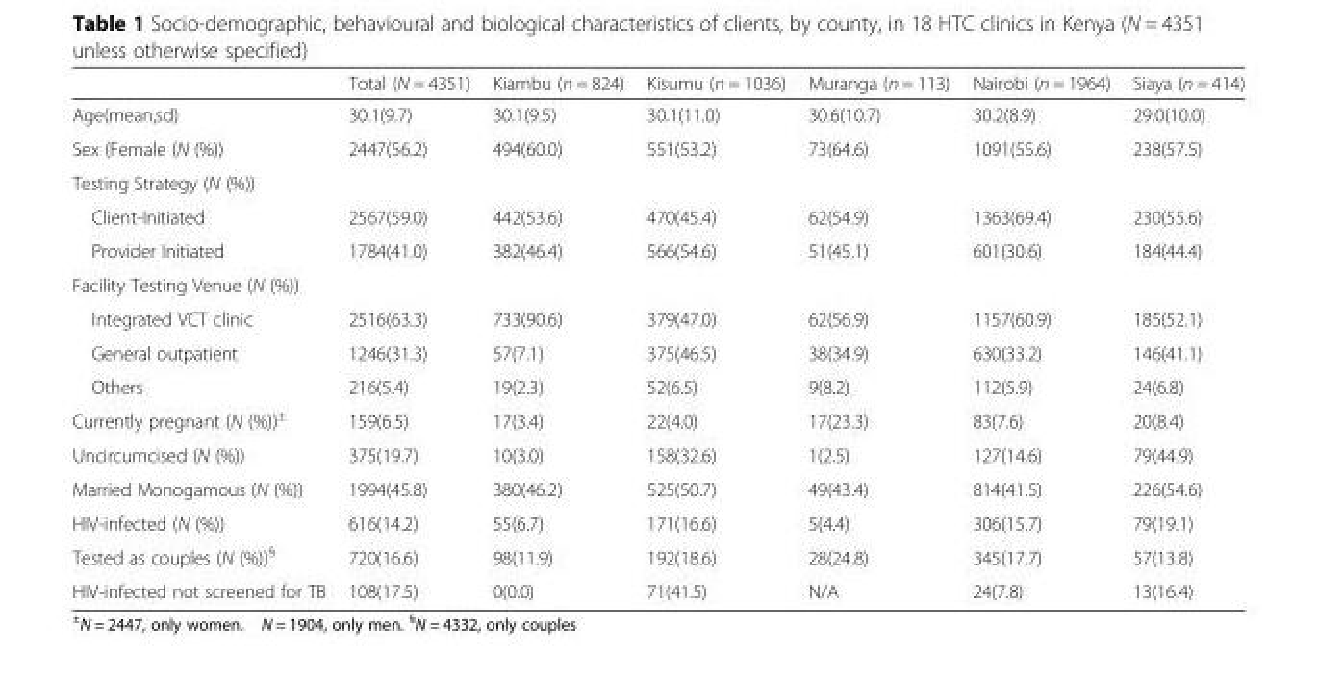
<table><thead><tr><td></td><td>Total (N = 4351)</td><td>Kiambu (n = 824)</td><td>Kisumu (n = 1036)</td><td>Muranga (n = 113)</td><td>Nairobi (n = 1964)</td><td>Siaya (n = 414)</td></tr></thead><tbody><tr><td>Age(mean,sd)</td><td>30.1(9.7)</td><td>30.1(9.5)</td><td>30.1(11.0)</td><td>30.6(10.7)</td><td>30.2(8.9)</td><td>29.0(10.0)</td></tr><tr><td>Sex (Female (N (%))</td><td>2447(56.2)</td><td>494(60.0)</td><td>551(53.2)</td><td>73(64.6)</td><td>1091(55.6)</td><td>238(57.5)</td></tr><tr><td colspan="7">Testing Strategy (N (%))</td></tr><tr><td>Client-Initiated</td><td>2567(59.0)</td><td>442(53.6)</td><td>470(45.4)</td><td>62(54.9)</td><td>1363(69.4)</td><td>230(55.6)</td></tr><tr><td>Provider Initiated</td><td>1784(41.0)</td><td>382(46.4)</td><td>566(54.6)</td><td>51(45.1)</td><td>601(30.6)</td><td>184(44.4)</td></tr><tr><td colspan="7">Facility Testing Venue (N (%))</td></tr><tr><td>Integrated VCT clinic</td><td>2516(63.3)</td><td>733(90.6)</td><td>379(47.0)</td><td>62(56.9)</td><td>1157(60.9)</td><td>185(52.1)</td></tr><tr><td>General outpatient</td><td>1246(31.3)</td><td>57(7.1)</td><td>375(46.5)</td><td>38(34.9)</td><td>630(33.2)</td><td>146(41.1)</td></tr><tr><td>Others</td><td>216(5.4)</td><td>19(2.3)</td><td>52(6.5)</td><td>9(8.2)</td><td>112(5.9)</td><td>24(6.8)</td></tr><tr><td>Currently pregnant (N (%))<sup>±</sup></td><td>159(6.5)</td><td>17(3.4)</td><td>22(4.0)</td><td>17(23.3)</td><td>83(7.6)</td><td>20(8.4)</td></tr><tr><td>Uncircumcised (N (%))</td><td>375(19.7)</td><td>10(3.0)</td><td>158(32.6)</td><td>1(2.5)</td><td>127(14.6)</td><td>79(44.9)</td></tr><tr><td>Married Monogamous (N (%))</td><td>1994(45.8)</td><td>380(46.2)</td><td>525(50.7)</td><td>49(43.4)</td><td>814(41.5)</td><td>226(54.6)</td></tr><tr><td>HIV-infected (N (%))</td><td>616(14.2)</td><td>55(6.7)</td><td>171(16.6)</td><td>5(4.4)</td><td>306(15.7)</td><td>79(19.1)</td></tr><tr><td>Tested as couples (N (%))<sup>§</sup></td><td>720(16.6)</td><td>98(11.9)</td><td>192(18.6)</td><td>28(24.8)</td><td>345(17.7)</td><td>57(13.8)</td></tr><tr><td>HIV-infected not screened for TB</td><td>108(17.5)</td><td>0(0.0)</td><td>71(41.5)</td><td>N/A</td><td>24(7.8)</td><td>13(16.4)</td></tr></tbody></table>